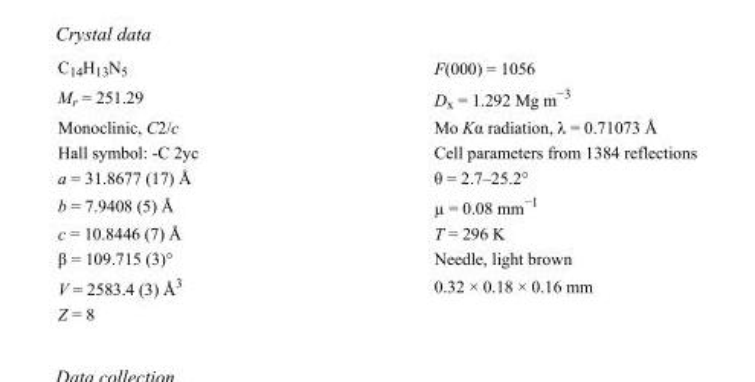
<table><tbody><tr><td>C<sub>14</sub>H<sub>13</sub>N<sub>5</sub></td><td>F(000) = 1056</td></tr><tr><td>M<sub>r</sub> = 251.29</td><td>D<sub>x</sub> = 1.292 Mg m<sup>−3</sup></td></tr><tr><td>Monoclinic, C2/c</td><td>Mo Kα radiation, λ = 0.71073 Å</td></tr><tr><td>Hall symbol: -C 2yc</td><td>Cell parameters from 1384 reflections</td></tr><tr><td>a = 31.8677 (17) Å</td><td>θ = 2.7–25.2°</td></tr><tr><td>b = 7.9408 (5) Å</td><td>µ = 0.08 mm<sup>−1</sup></td></tr><tr><td>c = 10.8446 (7) Å</td><td>T = 296 K</td></tr><tr><td>β = 109.715 (3)°</td><td>Needle, light brown</td></tr><tr><td>V = 2583.4 (3) Å<sup>3</sup></td><td>0.32 × 0.18 × 0.16 mm</td></tr><tr><td>Z = 8</td><td></td></tr></tbody></table>